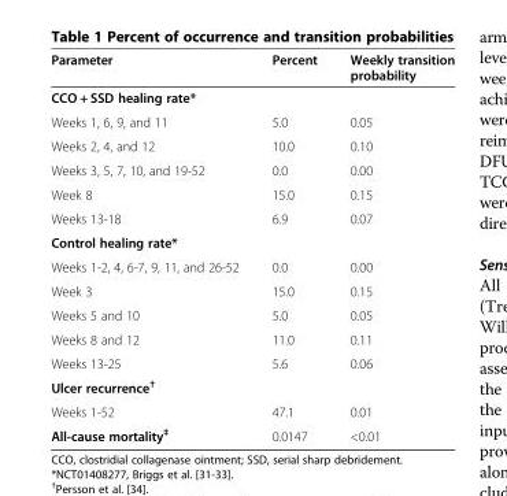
<table><thead><tr><td>Parameter</td><td>Percent</td><td>Weekly transition probability</td></tr></thead><tbody><tr><td colspan="3">CCO + SSD healing rate*</td></tr><tr><td>Weeks 1, 6, 9, and 11</td><td>5.0</td><td>0.05</td></tr><tr><td>Weeks 2, 4, and 12</td><td>10.0</td><td>0.10</td></tr><tr><td>Weeks 3, 5, 7, 10, and 19-52</td><td>0.0</td><td>0.00</td></tr><tr><td>Week 8</td><td>15.0</td><td>0.15</td></tr><tr><td>Weeks 13-18</td><td>6.9</td><td>0.07</td></tr><tr><td colspan="3">Control healing rate*</td></tr><tr><td>Weeks 1-2, 4, 6-7, 9, 11, and 26-52</td><td>0.0</td><td>0.00</td></tr><tr><td>Week 3</td><td>15.0</td><td>0.15</td></tr><tr><td>Weeks 5 and 10</td><td>5.0</td><td>0.05</td></tr><tr><td>Weeks 8 and 12</td><td>11.0</td><td>0.11</td></tr><tr><td>Weeks 13-25</td><td>5.6</td><td>0.06</td></tr><tr><td colspan="3">Ulcer recurrence<sup>†</sup></td></tr><tr><td>Weeks 1-52</td><td>47.1</td><td>0.01</td></tr><tr><td>All-cause mortality<sup>‡</sup></td><td>0.0147</td><td>&lt;0.01</td></tr></tbody></table>